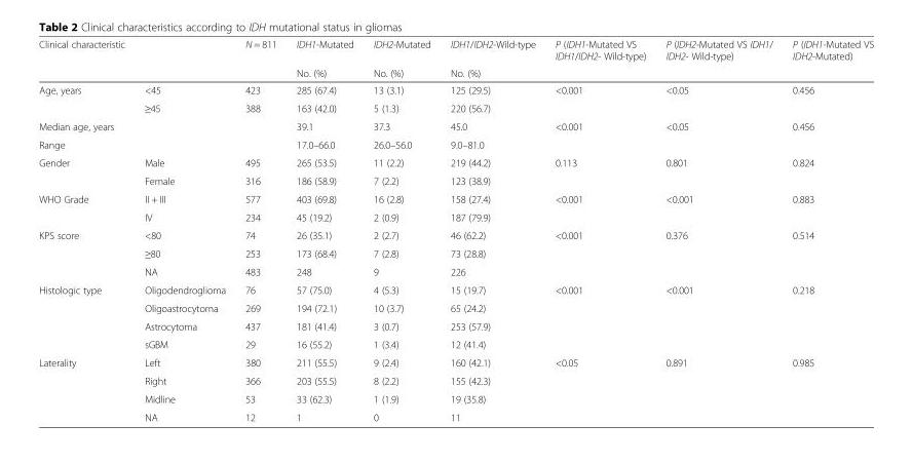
<table><thead><tr><td rowspan="2">Clinical characteristic</td><td rowspan="2"></td><td rowspan="2">N = 811</td><td rowspan="2">IDH1-Mutated No. (%)</td><td rowspan="2">IDH2-Mutated No. (%)</td><td rowspan="2">IDH1/IDH2-Wild-type No. (%)</td><td rowspan="2">P (IDH1-Mutated VS IDH1/IDH2- Wild-type)</td><td rowspan="2">P (IDH2-Mutated VS IDH1/ IDH2- Wild-type)</td><td rowspan="2">P (IDH1-Mutated VS IDH2-Mutated)</td></tr><tr></tr></thead><tbody><tr><td rowspan="2">Age, years</td><td>&lt;45</td><td>423</td><td>285 (67.4)</td><td>13 (3.1)</td><td>125 (29.5)</td><td>&lt;0.001</td><td>&lt;0.05</td><td>0.456</td></tr><tr><td>≥45</td><td>388</td><td>163 (42.0)</td><td>5 (1.3)</td><td>220 (56.7)</td><td></td><td></td><td></td></tr><tr><td>Median age, years</td><td></td><td></td><td>39.1</td><td>37.3</td><td>45.0</td><td>&lt;0.001</td><td>&lt;0.05</td><td>0.456</td></tr><tr><td>Range</td><td></td><td></td><td>17.0–66.0</td><td>26.0–56.0</td><td>9.0–81.0</td><td></td><td></td><td></td></tr><tr><td rowspan="2">Gender</td><td>Male</td><td>495</td><td>265 (53.5)</td><td>11 (2.2)</td><td>219 (44.2)</td><td>0.113</td><td>0.801</td><td>0.824</td></tr><tr><td>Female</td><td>316</td><td>186 (58.9)</td><td>7 (2.2)</td><td>123 (38.9)</td><td></td><td></td><td></td></tr><tr><td rowspan="2">WHO Grade</td><td>II + III</td><td>577</td><td>403 (69.8)</td><td>16 (2.8)</td><td>158 (27.4)</td><td>&lt;0.001</td><td>&lt;0.001</td><td>0.883</td></tr><tr><td>IV</td><td>234</td><td>45 (19.2)</td><td>2 (0.9)</td><td>187 (79.9)</td><td></td><td></td><td></td></tr><tr><td rowspan="3">KPS score</td><td>&lt;80</td><td>74</td><td>26 (35.1)</td><td>2 (2.7)</td><td>46 (62.2)</td><td>&lt;0.001</td><td>0.376</td><td>0.514</td></tr><tr><td>≥80</td><td>253</td><td>173 (68.4)</td><td>7 (2.8)</td><td>73 (28.8)</td><td></td><td></td><td></td></tr><tr><td>NA</td><td>483</td><td>248</td><td>9</td><td>226</td><td></td><td></td><td></td></tr><tr><td rowspan="4">Histologic type</td><td>Oligodendroglioma</td><td>76</td><td>57 (75.0)</td><td>4 (5.3)</td><td>15 (19.7)</td><td>&lt;0.001</td><td>&lt;0.001</td><td>0.218</td></tr><tr><td>Oligoastrocytoma</td><td>269</td><td>194 (72.1)</td><td>10 (3.7)</td><td>65 (24.2)</td><td></td><td></td><td></td></tr><tr><td>Astrocytoma</td><td>437</td><td>181 (41.4)</td><td>3 (0.7)</td><td>253 (57.9)</td><td></td><td></td><td></td></tr><tr><td>sGBM</td><td>29</td><td>16 (55.2)</td><td>1 (3.4)</td><td>12 (41.4)</td><td></td><td></td><td></td></tr><tr><td rowspan="4">Laterality</td><td>Left</td><td>380</td><td>211 (55.5)</td><td>9 (2.4)</td><td>160 (42.1)</td><td>&lt;0.05</td><td>0.891</td><td>0.985</td></tr><tr><td>Right</td><td>366</td><td>203 (55.5)</td><td>8 (2.2)</td><td>155 (42.3)</td><td></td><td></td><td></td></tr><tr><td>Midline</td><td>53</td><td>33 (62.3)</td><td>1 (1.9)</td><td>19 (35.8)</td><td></td><td></td><td></td></tr><tr><td>NA</td><td>12</td><td>1</td><td>0</td><td>11</td><td></td><td></td><td></td></tr></tbody></table>